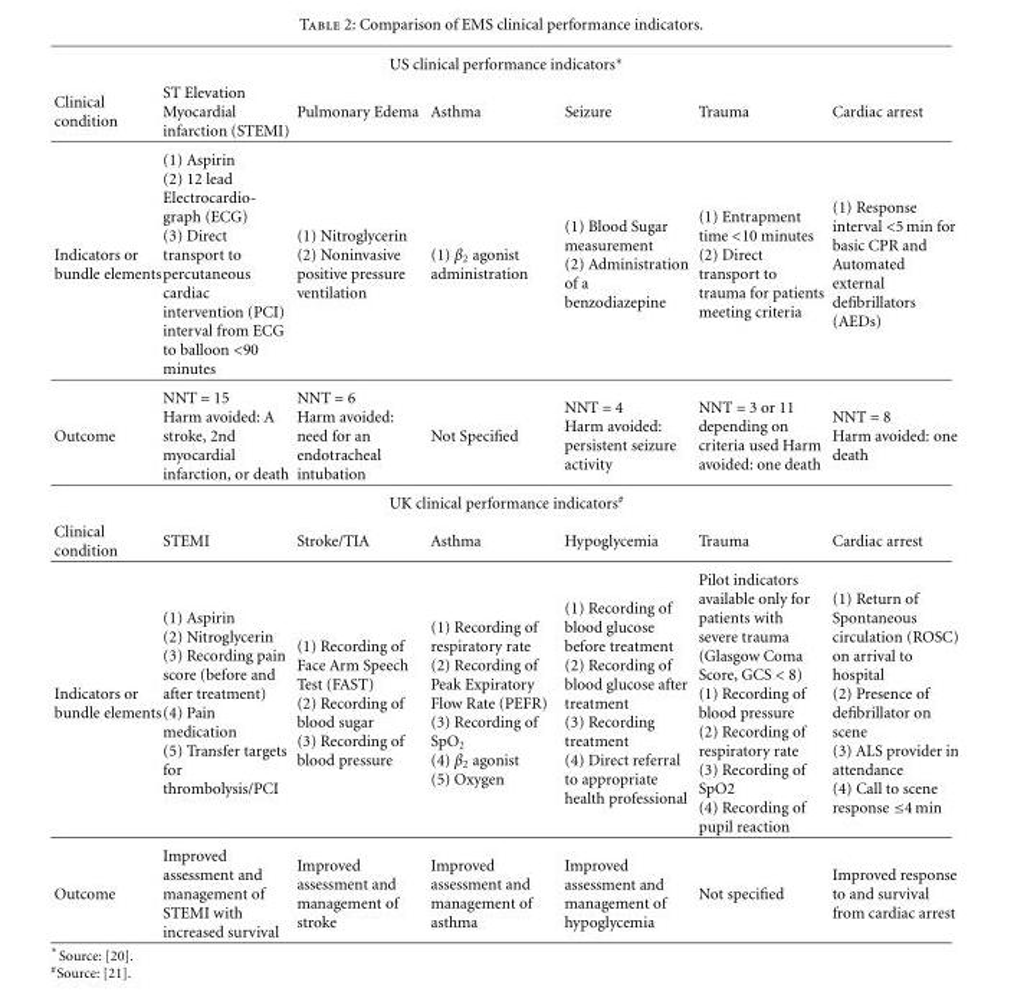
<table><thead><tr><td colspan="7">US clinical performance indicators∗</td></tr><tr><td>Clinical condition</td><td>ST Elevation Myocardial infarction (STEMI)</td><td>Pulmonary Edema</td><td>Asthma</td><td>Seizure</td><td>Trauma</td><td>Cardiac arrest</td></tr></thead><tbody><tr><td>Indicators or bundle elements</td><td>(1) Aspirin (2) 12 lead Electrocardio- graph (ECG) (3) Direct transport to percutaneous cardiac intervention (PCI) interval from ECG to balloon &lt;90 minutes</td><td>(1) Nitroglycerin (2) Noninvasive positive pressure ventilation</td><td>(1) β<sub>2</sub> agonist administration</td><td>(1) Blood Sugar measurement (2) Administration of a benzodiazepine</td><td>(1) Entrapment time &lt;10 minutes (2) Direct transport to trauma for patients meeting criteria</td><td>(1) Response interval &lt;5 min for basic CPR and Automated external defibrillators (AEDs)</td></tr><tr><td>Outcome</td><td>NNT = 15 Harm avoided: A stroke, 2nd myocardial infarction, or death</td><td>NNT = 6 Harm avoided: need for an endotracheal intubation</td><td>Not Specified</td><td>NNT = 4 Harm avoided: persistent seizure activity</td><td>NNT = 3 or 11 depending on criteria used Harm avoided: one death</td><td>NNT = 8 Harm avoided: one death</td></tr><tr><td colspan="7">UK clinical performance indicators<sup>#</sup></td></tr><tr><td>Clinical condition</td><td>STEMI</td><td>Stroke/TIA</td><td>Asthma</td><td>Hypoglycemia</td><td>Trauma</td><td>Cardiac arrest</td></tr><tr><td>Indicators or bundle elements</td><td>(1) Aspirin (2) Nitroglycerin (3) Recording pain score (before and after treatment) (4) Pain medication (5) Transfer targets for thrombolysis/PCI</td><td>(1) Recording of Face Arm Speech Test (FAST) (2) Recording of blood sugar (3) Recording of blood pressure</td><td>(1) Recording of respiratory rate (2) Recording of Peak Expiratory Flow Rate (PEFR) (3) Recording of SpO<sub>2</sub> (4) β<sub>2</sub> agonist (5) Oxygen</td><td>(1) Recording of blood glucose before treatment (2) Recording of blood glucose after treatment (3) Recording treatment (4) Direct referral to appropriate health professional</td><td>Pilot indicators available only for patients with severe trauma (Glasgow Coma Score, GCS &lt; 8) (1) Recording of blood pressure (2) Recording of respiratory rate (3) Recording of SpO2 (4) Recording of pupil reaction</td><td>(1) Return of Spontaneous circulation (ROSC) on arrival to hospital (2) Presence of defibrillator on scene (3) ALS provider in attendance (4) Call to scene response ≤4 min</td></tr><tr><td>Outcome</td><td>Improved assessment and management of STEMI with increased survival</td><td>Improved assessment and management of stroke</td><td>Improved assessment and management of asthma</td><td>Improved assessment and management of hypoglycemia</td><td>Not specified</td><td>Improved response to and survival from cardiac arrest</td></tr></tbody></table>